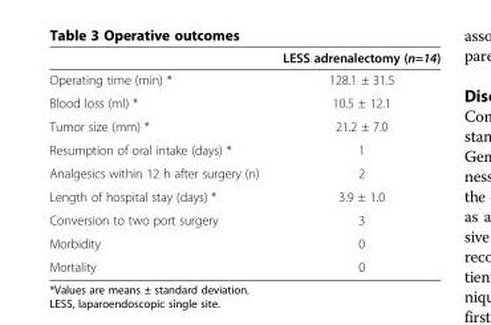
<table><thead><tr><td></td><td>LESS adrenalectomy (n=14)</td></tr></thead><tbody><tr><td>Operating time (min) *</td><td>128.1 ± 31.5</td></tr><tr><td>Blood loss (ml) *</td><td>10.5 ± 12.1</td></tr><tr><td>Tumor size (mm) *</td><td>21.2 ± 7.0</td></tr><tr><td>Resumption of oral intake (days) *</td><td>1</td></tr><tr><td>Analgesics within 12 h after surgery (n)</td><td>2</td></tr><tr><td>Length of hospital stay (days) *</td><td>3.9 ± 1.0</td></tr><tr><td>Conversion to two port surgery</td><td>3</td></tr><tr><td>Morbidity</td><td>0</td></tr><tr><td>Mortality</td><td>0</td></tr></tbody></table>